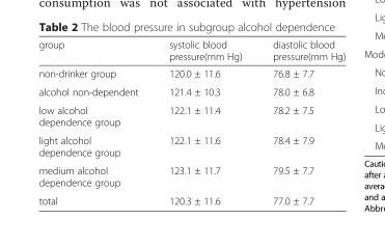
<table><thead><tr><td>group</td><td>systolic blood pressure(mm Hg)</td><td>diastolic blood pressure(mm Hg)</td></tr></thead><tbody><tr><td>non-drinker group</td><td>120.0 ± 11.6</td><td>76.8 ± 7.7</td></tr><tr><td>alcohol non-dependent</td><td>121.4 ± 10.3</td><td>78.0 ± 6.8</td></tr><tr><td>low alcohol dependence group</td><td>122.1 ± 11.4</td><td>78.2 ± 7.5</td></tr><tr><td>light alcohol dependence group</td><td>122.1 ± 11.6</td><td>78.4 ± 7.9</td></tr><tr><td>medium alcohol dependence group</td><td>123.1 ± 11.7</td><td>79.5 ± 7.7</td></tr><tr><td>total</td><td>120.3 ± 11.6</td><td>77.0 ± 7.7</td></tr></tbody></table>